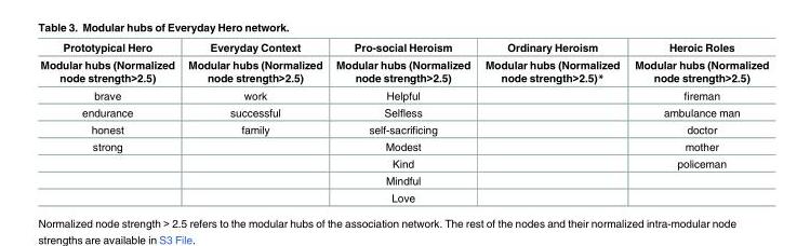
<table><thead><tr><td rowspan="2">Prototypical Hero Modular hubs (Normalized node strength&gt;2.5)</td><td rowspan="2">Everyday Context Modular hubs (Normalized node strength&gt;2.5)</td><td rowspan="2">Pro-social Heroism Modular hubs (Normalized node strength&gt;2.5)</td><td rowspan="2">Ordinary Heroism Modular hubs (Normalized node strength&gt;2.5)*</td><td rowspan="2">Heroic Roles Modular hubs (Normalized node strength&gt;2.5)</td></tr><tr></tr></thead><tbody><tr><td>brave</td><td>work</td><td>Helpful</td><td></td><td>fireman</td></tr><tr><td>endurance</td><td>successful</td><td>Selfless</td><td></td><td>ambulance man</td></tr><tr><td>honest</td><td>family</td><td>self-sacrificing</td><td></td><td>doctor</td></tr><tr><td rowspan="4">strong</td><td></td><td>Modest</td><td></td><td>mother</td></tr><tr><td></td><td>Kind</td><td></td><td>policeman</td></tr><tr><td></td><td>Mindful</td><td></td><td></td></tr><tr><td></td><td>Love</td><td></td><td></td></tr></tbody></table>